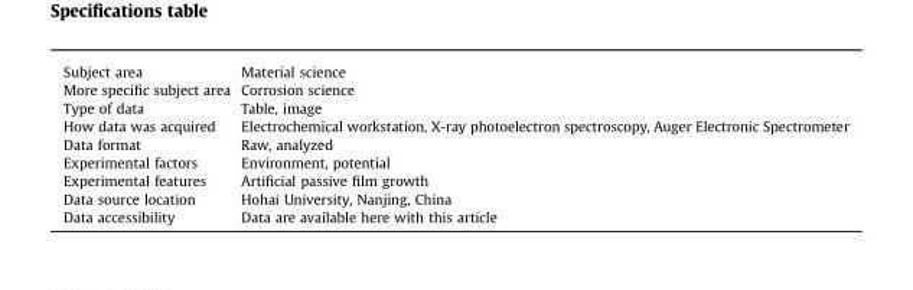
<table><tbody><tr><td>Subject area</td><td>Material science</td></tr><tr><td>More specific subject area</td><td>Corrosion science</td></tr><tr><td>Type of data</td><td>Table, image</td></tr><tr><td>How data was acquired</td><td>Electrochemical workstation, X-ray photoelectron spectroscopy, Auger Electronic Spectrometer</td></tr><tr><td>Data format</td><td>Raw, analyzed</td></tr><tr><td>Experimental factors</td><td>Environment, potential</td></tr><tr><td>Experimental features</td><td>Artificial passive film growth</td></tr><tr><td>Data source location</td><td>Hohai University, Nanjing, China</td></tr><tr><td>Data accessibility</td><td>Data are available here with this article</td></tr></tbody></table>